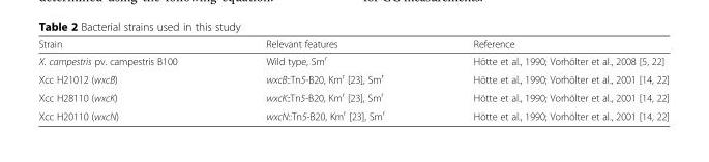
<table><thead><tr><td>Strain</td><td>Relevant features</td><td>Reference</td></tr></thead><tbody><tr><td>X. campestris pv. campestris B100</td><td>Wild type, Sm<sup>r</sup></td><td>Hötte et al., 1990; Vorhölter et al., 2008 [5, 22]</td></tr><tr><td>Xcc H21012 (wxcB)</td><td>wxcB::Tn5-B20, Km<sup>r</sup> [23], Sm<sup>r</sup></td><td>Hötte et al., 1990; Vorhölter et al., 2001 [14, 22]</td></tr><tr><td>Xcc H28110 (wxcK)</td><td>wxcK::Tn5-B20, Km<sup>r</sup> [23], Sm<sup>r</sup></td><td>Hötte et al., 1990; Vorhölter et al., 2001 [14, 22]</td></tr><tr><td>Xcc H20110 (wxcN)</td><td>wxcN::Tn5-B20, Km<sup>r</sup> [23], Sm<sup>r</sup></td><td>Hötte et al., 1990; Vorhölter et al., 2001 [14, 22]</td></tr></tbody></table>